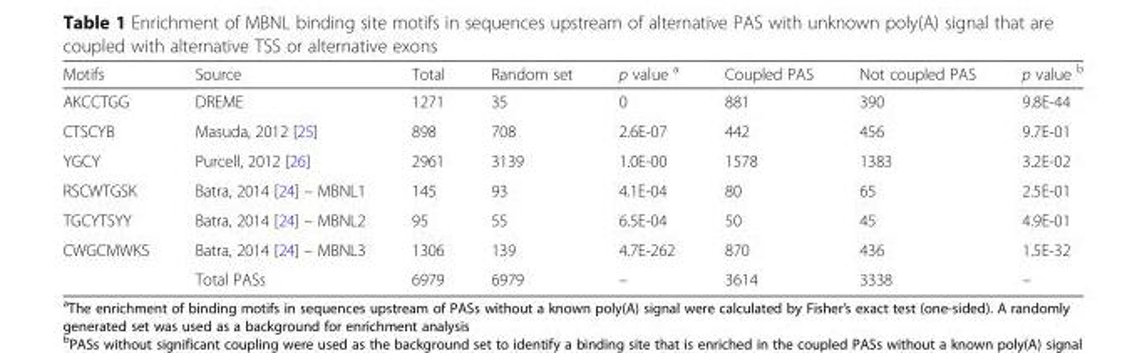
<table><thead><tr><td>Motifs</td><td>Source</td><td>Total</td><td>Random set</td><td>p value <sup>a</sup></td><td>Coupled PAS</td><td>Not coupled PAS</td><td>p value <sup>b</sup></td></tr></thead><tbody><tr><td>AKCCTGG</td><td>DREME</td><td>1271</td><td>35</td><td>0</td><td>881</td><td>390</td><td>9.8E-44</td></tr><tr><td>CTSCYB</td><td>Masuda, 2012 [25]</td><td>898</td><td>708</td><td>2.6E-07</td><td>442</td><td>456</td><td>9.7E-01</td></tr><tr><td>YGCY</td><td>Purcell, 2012 [26]</td><td>2961</td><td>3139</td><td>1.0E-00</td><td>1578</td><td>1383</td><td>3.2E-02</td></tr><tr><td>RSCWTGSK</td><td>Batra, 2014 [24] – MBNL1</td><td>145</td><td>93</td><td>4.1E-04</td><td>80</td><td>65</td><td>2.5E-01</td></tr><tr><td>TGCYTSYY</td><td>Batra, 2014 [24] – MBNL2</td><td>95</td><td>55</td><td>6.5E-04</td><td>50</td><td>45</td><td>4.9E-01</td></tr><tr><td rowspan="2">CWGCMWKS</td><td>Batra, 2014 [24] – MBNL3</td><td>1306</td><td>139</td><td>4.7E-262</td><td>870</td><td>436</td><td>1.5E-32</td></tr><tr><td>Total PASs</td><td>6979</td><td>6979</td><td>–</td><td>3614</td><td>3338</td><td>–</td></tr></tbody></table>